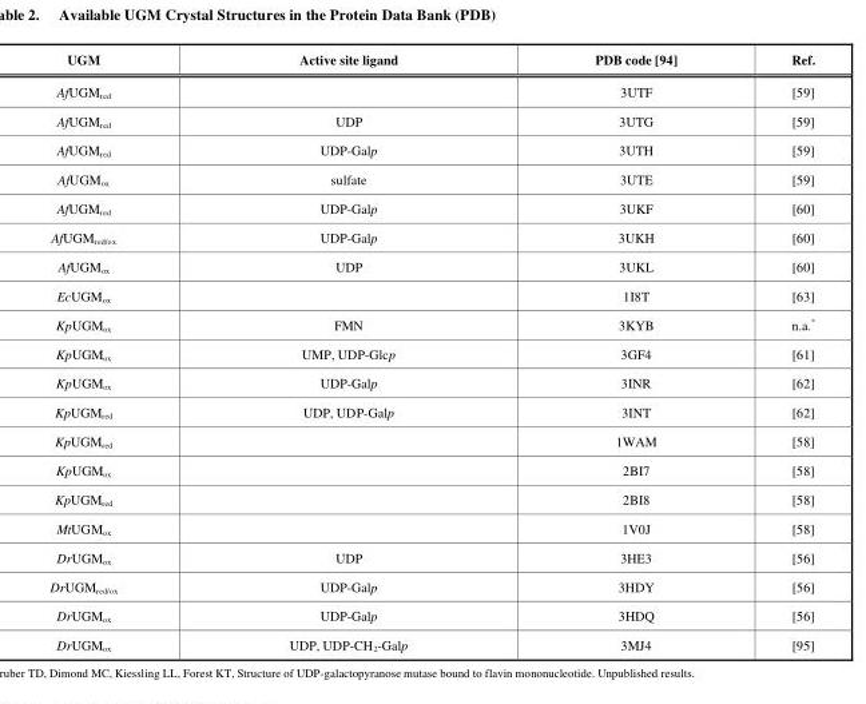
<table><thead><tr><td>UGM</td><td>Active site ligand</td><td>PDB code [94]</td><td>Ref.</td></tr></thead><tbody><tr><td>AfUGM<sub>red</sub></td><td></td><td>3UTF</td><td>[59]</td></tr><tr><td>AfUGM<sub>red</sub></td><td>UDP</td><td>3UTG</td><td>[59]</td></tr><tr><td>AfUGM<sub>red</sub></td><td>UDP-Galp</td><td>3UTH</td><td>[59]</td></tr><tr><td>AfUGMox</td><td>sulfate</td><td>3UTE</td><td>[59]</td></tr><tr><td>AfUGM<sub>red</sub></td><td>UDP-Galp</td><td>3UKF</td><td>[60]</td></tr><tr><td>AfUGM<sub>red/ox</sub></td><td>UDP-Galp</td><td>3UKH</td><td>[60]</td></tr><tr><td>AfUGM<sub>ox</sub></td><td>UDP</td><td>3UKL</td><td>[60]</td></tr><tr><td>EcUGM<sub>ox</sub></td><td></td><td>1I8T</td><td>[63]</td></tr><tr><td>KpUGM<sub>ox</sub></td><td>FMN</td><td>3KYB</td><td>n.a.*</td></tr><tr><td>KpUGM<sub>ox</sub></td><td>UMP, UDP-Glcp</td><td>3GF4</td><td>[61]</td></tr><tr><td>KpUGM<sub>ox</sub></td><td>UDP-Galp</td><td>3INR</td><td>[62]</td></tr><tr><td>KpUGM<sub>red</sub></td><td>UDP, UDP-Galp</td><td>3INT</td><td>[62]</td></tr><tr><td>KpUGM<sub>red</sub></td><td></td><td>1WAM</td><td>[58]</td></tr><tr><td>KpUGM<sub>ox</sub></td><td></td><td>2BI7</td><td>[58]</td></tr><tr><td>KpUGM<sub>red</sub></td><td></td><td>2BI8</td><td>[58]</td></tr><tr><td>MtUGM<sub>ox</sub></td><td></td><td>1V0J</td><td>[58]</td></tr><tr><td>DrUGM<sub>ox</sub></td><td>UDP</td><td>3HE3</td><td>[56]</td></tr><tr><td>DrUGM<sub>red/ox</sub></td><td>UDP-Galp</td><td>3HDY</td><td>[56]</td></tr><tr><td>DrUGM<sub>ox</sub></td><td>UDP-Galp</td><td>3HDQ</td><td>[56]</td></tr><tr><td>DrUGM<sub>ox</sub></td><td>UDP, UDP-CH<sub>2</sub>-Galp</td><td>3MJ4</td><td>[95]</td></tr></tbody></table>